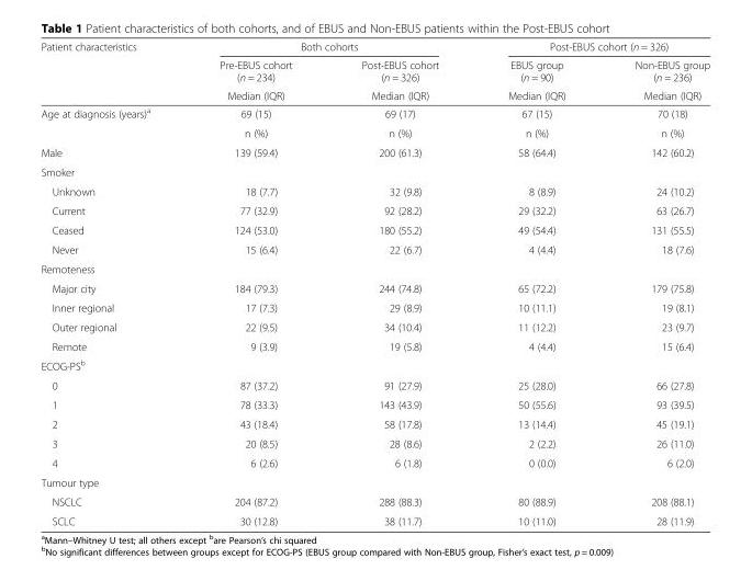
<table><thead><tr><td rowspan="3">Patient characteristics</td><td colspan="2">Both cohorts</td><td colspan="2">Post-EBUS cohort (n = 326)</td></tr><tr><td rowspan="2">Pre-EBUS cohort (n = 234) Median (IQR)</td><td rowspan="2">Post-EBUS cohort (n = 326) Median (IQR)</td><td rowspan="2">EBUS group (n = 90) Median (IQR)</td><td rowspan="2">Non-EBUS group (n = 236) Median (IQR)</td></tr><tr></tr></thead><tbody><tr><td rowspan="2">Age at diagnosis (years)<sup>a</sup></td><td>69 (15)</td><td>69 (17)</td><td>67 (15)</td><td>70 (18)</td></tr><tr><td>n (%)</td><td>n (%)</td><td>n (%)</td><td>n (%)</td></tr><tr><td>Male</td><td>139 (59.4)</td><td>200 (61.3)</td><td>58 (64.4)</td><td>142 (60.2)</td></tr><tr><td colspan="5">Smoker</td></tr><tr><td>Unknown</td><td>18 (7.7)</td><td>32 (9.8)</td><td>8 (8.9)</td><td>24 (10.2)</td></tr><tr><td>Current</td><td>77 (32.9)</td><td>92 (28.2)</td><td>29 (32.2)</td><td>63 (26.7)</td></tr><tr><td>Ceased</td><td>124 (53.0)</td><td>180 (55.2)</td><td>49 (54.4)</td><td>131 (55.5)</td></tr><tr><td>Never</td><td>15 (6.4)</td><td>22 (6.7)</td><td>4 (4.4)</td><td>18 (7.6)</td></tr><tr><td colspan="5">Remoteness</td></tr><tr><td>Major city</td><td>184 (79.3)</td><td>244 (74.8)</td><td>65 (72.2)</td><td>179 (75.8)</td></tr><tr><td>Inner regional</td><td>17 (7.3)</td><td>29 (8.9)</td><td>10 (11.1)</td><td>19 (8.1)</td></tr><tr><td>Outer regional</td><td>22 (9.5)</td><td>34 (10.4)</td><td>11 (12.2)</td><td>23 (9.7)</td></tr><tr><td>Remote</td><td>9 (3.9)</td><td>19 (5.8)</td><td>4 (4.4)</td><td>15 (6.4)</td></tr><tr><td colspan="5">ECOG-PS<sup>b</sup></td></tr><tr><td>0</td><td>87 (37.2)</td><td>91 (27.9)</td><td>25 (28.0)</td><td>66 (27.8)</td></tr><tr><td>1</td><td>78 (33.3)</td><td>143 (43.9)</td><td>50 (55.6)</td><td>93 (39.5)</td></tr><tr><td>2</td><td>43 (18.4)</td><td>58 (17.8)</td><td>13 (14.4)</td><td>45 (19.1)</td></tr><tr><td>3</td><td>20 (8.5)</td><td>28 (8.6)</td><td>2 (2.2)</td><td>26 (11.0)</td></tr><tr><td>4</td><td>6 (2.6)</td><td>6 (1.8)</td><td>0 (0.0)</td><td>6 (2.0)</td></tr><tr><td colspan="5">Tumour type</td></tr><tr><td>NSCLC</td><td>204 (87.2)</td><td>288 (88.3)</td><td>80 (88.9)</td><td>208 (88.1)</td></tr><tr><td>SCLC</td><td>30 (12.8)</td><td>38 (11.7)</td><td>10 (11.0)</td><td>28 (11.9)</td></tr></tbody></table>